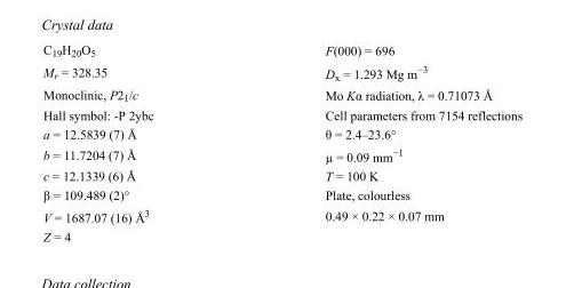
<table><tbody><tr><td>C<sub>19</sub>H<sub>20</sub>O<sub>5</sub></td><td>F(000) = 696</td></tr><tr><td>M<sub>r</sub> = 328.35</td><td>D<sub>x</sub> = 1.293 Mg m<sup>−3</sup></td></tr><tr><td>Monoclinic, P2<sub>1</sub>/c</td><td>Mo Kα radiation, λ = 0.71073 Å</td></tr><tr><td>Hall symbol: -P 2ybc</td><td>Cell parameters from 7154 reflections</td></tr><tr><td>a = 12.5839 (7) Å</td><td>θ = 2.4–23.6°</td></tr><tr><td>b = 11.7204 (7) Å</td><td>µ = 0.09 mm<sup>−1</sup></td></tr><tr><td>c = 12.1339 (6) Å</td><td>T = 100 K</td></tr><tr><td>β = 109.489 (2)°</td><td>Plate, colourless</td></tr><tr><td>V = 1687.07 (16) Å<sup>3</sup></td><td>0.49 × 0.22 × 0.07 mm</td></tr><tr><td>Z = 4</td><td></td></tr></tbody></table>